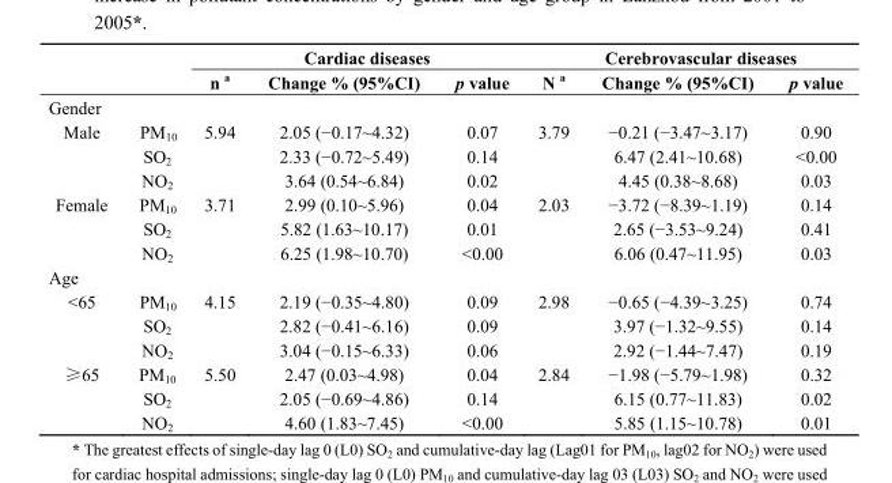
<table><thead><tr><td rowspan="2"></td><td rowspan="2"></td><td colspan="3">Cardiac diseases</td><td colspan="3">Cerebrovascular diseases</td></tr><tr><td>n <sup>a</sup></td><td>Change % (95%CI)</td><td>p value</td><td>N <sup>a</sup></td><td>Change % (95%CI)</td><td>p value</td></tr></thead><tbody><tr><td colspan="8">Gender</td></tr><tr><td rowspan="3">Male</td><td>PM<sub>10</sub></td><td>5.94</td><td>2.05 (−0.17~4.32)</td><td>0.07</td><td>3.79</td><td>−0.21 (−3.47~3.17)</td><td>0.90</td></tr><tr><td>SO<sub>2</sub></td><td></td><td>2.33 (−0.72~5.49)</td><td>0.14</td><td></td><td>6.47 (2.41~10.68)</td><td>&lt;0.00</td></tr><tr><td>NO<sub>2</sub></td><td></td><td>3.64 (0.54~6.84)</td><td>0.02</td><td></td><td>4.45 (0.38~8.68)</td><td>0.03</td></tr><tr><td rowspan="3">Female</td><td>PM<sub>10</sub></td><td>3.71</td><td>2.99 (0.10~5.96)</td><td>0.04</td><td>2.03</td><td>−3.72 (−8.39~1.19)</td><td>0.14</td></tr><tr><td>SO<sub>2</sub></td><td></td><td>5.82 (1.63~10.17)</td><td>0.01</td><td></td><td>2.65 (−3.53~9.24)</td><td>0.41</td></tr><tr><td>NO<sub>2</sub></td><td></td><td>6.25 (1.98~10.70)</td><td>&lt;0.00</td><td></td><td>6.06 (0.47~11.95)</td><td>0.03</td></tr><tr><td colspan="8">Age</td></tr><tr><td rowspan="3">&lt;65</td><td>PM<sub>10</sub></td><td>4.15</td><td>2.19 (−0.35~4.80)</td><td>0.09</td><td>2.98</td><td>−0.65 (−4.39~3.25)</td><td>0.74</td></tr><tr><td>SO<sub>2</sub></td><td></td><td>2.82 (−0.41~6.16)</td><td>0.09</td><td></td><td>3.97 (−1.32~9.55)</td><td>0.14</td></tr><tr><td>NO<sub>2</sub></td><td></td><td>3.04 (−0.15~6.33)</td><td>0.06</td><td></td><td>2.92 (−1.44~7.47)</td><td>0.19</td></tr><tr><td rowspan="3">≥65</td><td>PM<sub>10</sub></td><td>5.50</td><td>2.47 (0.03~4.98)</td><td>0.04</td><td>2.84</td><td>−1.98 (−5.79~1.98)</td><td>0.32</td></tr><tr><td>SO<sub>2</sub></td><td></td><td>2.05 (−0.69~4.86)</td><td>0.14</td><td></td><td>6.15 (0.77~11.83)</td><td>0.02</td></tr><tr><td>NO<sub>2</sub></td><td></td><td>4.60 (1.83~7.45)</td><td>&lt;0.00</td><td></td><td>5.85 (1.15~10.78)</td><td>0.01</td></tr></tbody></table>